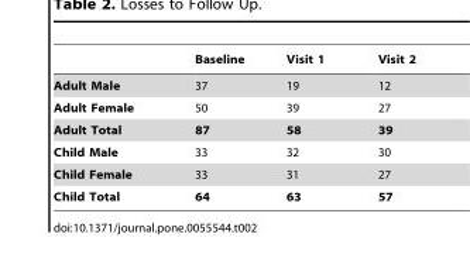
<table><thead><tr><td></td><td>Baseline</td><td>Visit 1</td><td>Visit 2</td></tr></thead><tbody><tr><td>Adult Male</td><td>37</td><td>19</td><td>12</td></tr><tr><td>Adult Female</td><td>50</td><td>39</td><td>27</td></tr><tr><td>Adult Total</td><td>87</td><td>58</td><td>39</td></tr><tr><td>Child Male</td><td>33</td><td>32</td><td>30</td></tr><tr><td>Child Female</td><td>33</td><td>31</td><td>27</td></tr><tr><td>Child Total</td><td>64</td><td>63</td><td>57</td></tr></tbody></table>